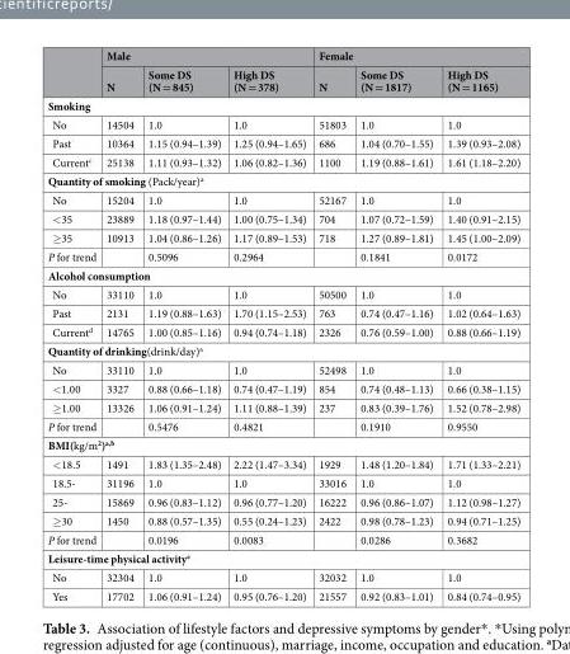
<table><thead><tr><td rowspan="2"></td><td colspan="3">Male</td><td colspan="3">Female</td></tr><tr><td>N</td><td>Some DS (N = 845)</td><td>High DS (N = 378)</td><td>N</td><td>Some DS (N = 1817)</td><td>High DS (N = 1165)</td></tr></thead><tbody><tr><td colspan="7">Smoking</td></tr><tr><td>No</td><td>14504</td><td>1.0</td><td>1.0</td><td>51803</td><td>1.0</td><td>1.0</td></tr><tr><td>Past</td><td>10364</td><td>1.15 (0.94–1.39)</td><td>1.25 (0.94–1.65)</td><td>686</td><td>1.04 (0.70–1.55)</td><td>1.39 (0.93–2.08)</td></tr><tr><td>Current<sup>c</sup></td><td>25138</td><td>1.11 (0.93–1.32)</td><td>1.06 (0.82–1.36)</td><td>1100</td><td>1.19 (0.88–1.61)</td><td>1.61 (1.18–2.20)</td></tr><tr><td colspan="7">Quantity of smoking (Pack/year)<sup>a</sup></td></tr><tr><td>No</td><td>15204</td><td>1.0</td><td>1.0</td><td>52167</td><td>1.0</td><td>1.0</td></tr><tr><td>&lt;35</td><td>23889</td><td>1.18 (0.97–1.44)</td><td>1.00 (0.75–1.34)</td><td>704</td><td>1.07 (0.72–1.59)</td><td>1.40 (0.91–2.15)</td></tr><tr><td>≥35</td><td>10913</td><td>1.04 (0.86–1.26)</td><td>1.17 (0.89–1.53)</td><td>718</td><td>1.27 (0.89–1.81)</td><td>1.45 (1.00–2.09)</td></tr><tr><td>P for trend</td><td></td><td>0.5096</td><td>0.2964</td><td></td><td>0.1841</td><td>0.0172</td></tr><tr><td colspan="7">Alcohol consumption</td></tr><tr><td>No</td><td>33110</td><td>1.0</td><td>1.0</td><td>50500</td><td>1.0</td><td>1.0</td></tr><tr><td>Past</td><td>2131</td><td>1.19 (0.88–1.63)</td><td>1.70 (1.15–2.53)</td><td>763</td><td>0.74 (0.47–1.16)</td><td>1.02 (0.64–1.63)</td></tr><tr><td>Current<sup>d</sup></td><td>14765</td><td>1.00 (0.85–1.16)</td><td>0.94 (0.74–1.18)</td><td>2326</td><td>0.76 (0.59–1.00)</td><td>0.88 (0.66–1.19)</td></tr><tr><td colspan="7">Quantity of drinking(drink/day)<sup>a</sup></td></tr><tr><td>No</td><td>33110</td><td>1.0</td><td>1.0</td><td>52498</td><td>1.0</td><td>1.0</td></tr><tr><td>&lt;1.00</td><td>3327</td><td>0.88 (0.66–1.18)</td><td>0.74 (0.47–1.19)</td><td>854</td><td>0.74 (0.48–1.13)</td><td>0.66 (0.38–1.15)</td></tr><tr><td>≥1.00</td><td>13326</td><td>1.06 (0.91–1.24)</td><td>1.11 (0.88–1.39)</td><td>237</td><td>0.83 (0.39–1.76)</td><td>1.52 (0.78–2.98)</td></tr><tr><td>P for trend</td><td></td><td>0.5476</td><td>0.4821</td><td></td><td>0.1910</td><td>0.9550</td></tr><tr><td colspan="7">BMI(kg/m<sup>2</sup>)<sup>a,b</sup></td></tr><tr><td>&lt;18.5</td><td>1491</td><td>1.83 (1.35–2.48)</td><td>2.22 (1.47–3.34)</td><td>1929</td><td>1.48 (1.20–1.84)</td><td>1.71 (1.33–2.21)</td></tr><tr><td>18.5-</td><td>31196</td><td>1.0</td><td>1.0</td><td>33016</td><td>1.0</td><td>1.0</td></tr><tr><td>25-</td><td>15869</td><td>0.96 (0.83–1.12)</td><td>0.96 (0.77–1.20)</td><td>16222</td><td>0.96 (0.86–1.07)</td><td>1.12 (0.98–1.27)</td></tr><tr><td>≥30</td><td>1450</td><td>0.88 (0.57–1.35)</td><td>0.55 (0.24–1.23)</td><td>2422</td><td>0.98 (0.78–1.23)</td><td>0.94 (0.71–1.25)</td></tr><tr><td>P for trend</td><td></td><td>0.0196</td><td>0.0083</td><td></td><td>0.0286</td><td>0.3682</td></tr><tr><td colspan="7">Leisure-time physical activity<sup>e</sup></td></tr><tr><td>No</td><td>32304</td><td>1.0</td><td>1.0</td><td>32032</td><td>1.0</td><td>1.0</td></tr><tr><td>Yes</td><td>17702</td><td>1.06 (0.91–1.24)</td><td>0.95 (0.76–1.20)</td><td>21557</td><td>0.92 (0.83–1.01)</td><td>0.84 (0.74–0.95)</td></tr></tbody></table>